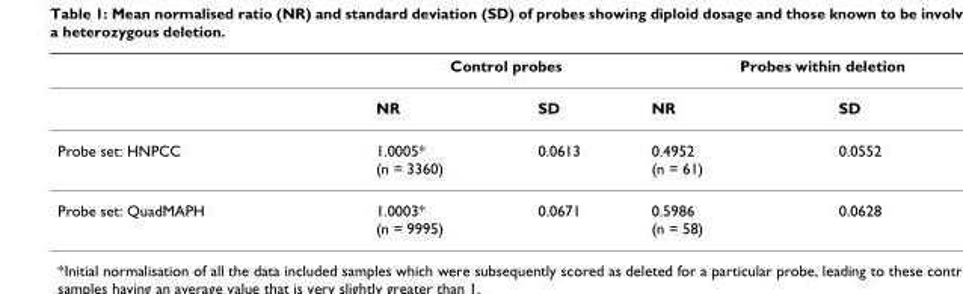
<table><thead><tr><td rowspan="2"></td><td colspan="2">Control probes</td><td colspan="2">Probes within deletion</td></tr><tr><td>NR</td><td>SD</td><td>NR</td><td>SD</td></tr></thead><tbody><tr><td>Probe set: HNPCC</td><td>1.0005* (n = 3360)</td><td>0.0613</td><td>0.4952 (n = 61)</td><td>0.0552</td></tr><tr><td>Probe set: QuadMAPH</td><td>1.0003* (n = 9995)</td><td>0.0671</td><td>0.5986 (n = 58)</td><td>0.0628</td></tr></tbody></table>